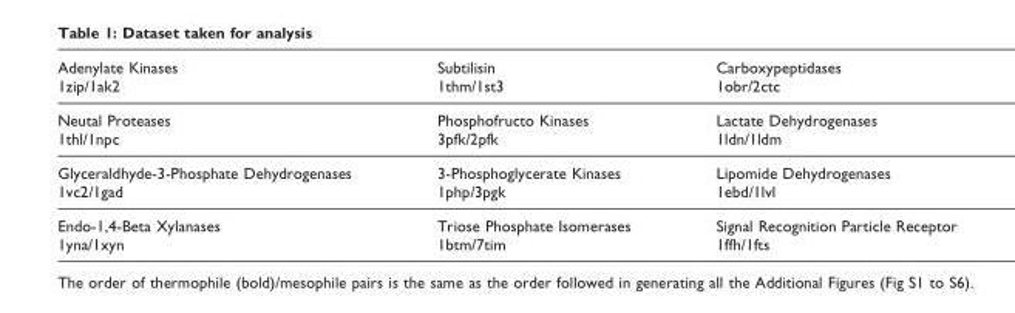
<table><thead><tr><td>Adenylate Kinases 1zip/1ak2</td><td>Subtilisin 1thm/1st3</td><td>Carboxypeptidases 1obr/2ctc</td></tr></thead><tbody><tr><td>Neutal Proteases 1thl/1npc</td><td>Phosphofructo Kinases 3pfk/2pfk</td><td>Lactate Dehydrogenases 1ldn/1ldm</td></tr><tr><td>Glyceraldhyde-3-Phosphate Dehydrogenases 1vc2/1gad</td><td>3-Phosphoglycerate Kinases 1php/3pgk</td><td>Lipomide Dehydrogenases 1ebd/1lvl</td></tr><tr><td>Endo-1,4-Beta Xylanases 1yna/1xyn</td><td>Triose Phosphate Isomerases 1btm/7tim</td><td>Signal Recognition Particle Receptor 1ffh/1fts</td></tr></tbody></table>